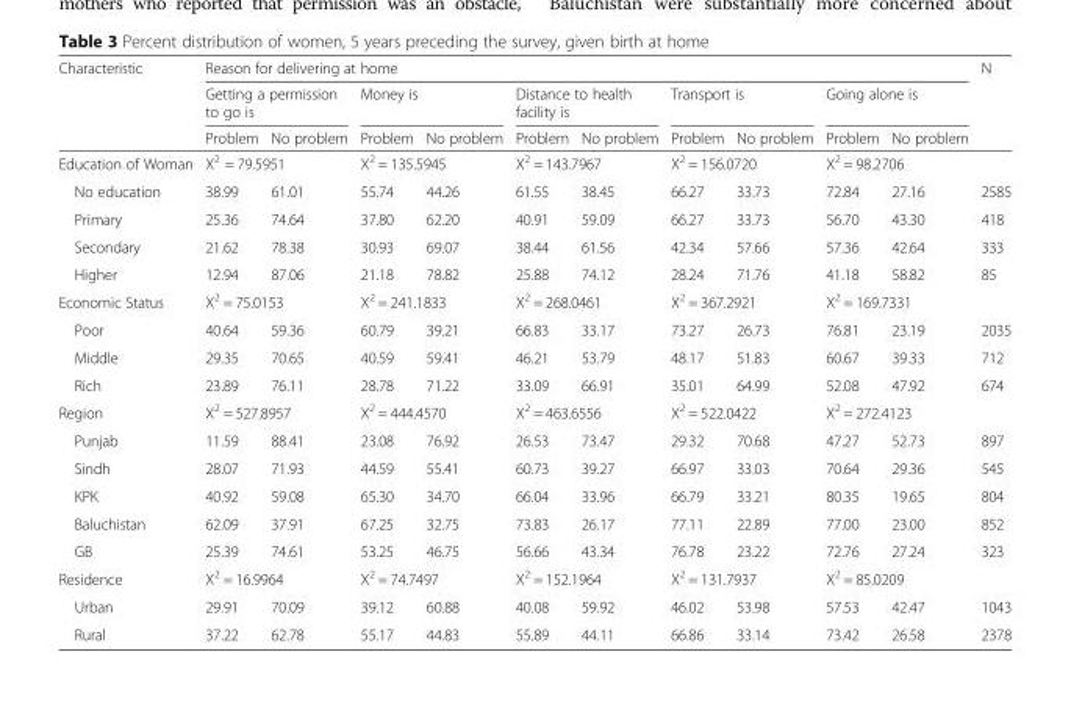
<table><thead><tr><td rowspan="3">Characteristic</td><td colspan="10">Reason for delivering at home</td><td rowspan="3">N</td></tr><tr><td colspan="2">Getting a permission to go is</td><td colspan="2">Money is</td><td colspan="2">Distance to health facility is</td><td colspan="2">Transport is</td><td colspan="2">Going alone is</td></tr><tr><td>Problem</td><td>No problem</td><td>Problem</td><td>No problem</td><td>Problem</td><td>No problem</td><td>Problem</td><td>No problem</td><td>Problem</td><td>No problem</td></tr></thead><tbody><tr><td>Education of Woman</td><td colspan="2">X<sup>2</sup> = 79.5951</td><td colspan="2">X<sup>2</sup> = 135.5945</td><td colspan="2">X<sup>2</sup> = 143.7967</td><td colspan="2">X<sup>2</sup> = 156.0720</td><td colspan="2">X<sup>2</sup> = 98.2706</td><td></td></tr><tr><td>No education</td><td>38.99</td><td>61.01</td><td>55.74</td><td>44.26</td><td>61.55</td><td>38.45</td><td>66.27</td><td>33.73</td><td>72.84</td><td>27.16</td><td>2585</td></tr><tr><td>Primary</td><td>25.36</td><td>74.64</td><td>37.80</td><td>62.20</td><td>40.91</td><td>59.09</td><td>66.27</td><td>33.73</td><td>56.70</td><td>43.30</td><td>418</td></tr><tr><td>Secondary</td><td>21.62</td><td>78.38</td><td>30.93</td><td>69.07</td><td>38.44</td><td>61.56</td><td>42.34</td><td>57.66</td><td>57.36</td><td>42.64</td><td>333</td></tr><tr><td>Higher</td><td>12.94</td><td>87.06</td><td>21.18</td><td>78.82</td><td>25.88</td><td>74.12</td><td>28.24</td><td>71.76</td><td>41.18</td><td>58.82</td><td>85</td></tr><tr><td>Economic Status</td><td colspan="2">X<sup>2</sup> = 75.0153</td><td colspan="2">X<sup>2</sup> = 241.1833</td><td colspan="2">X<sup>2</sup> = 268.0461</td><td colspan="2">X<sup>2</sup> = 367.2921</td><td colspan="2">X<sup>2</sup> = 169.7331</td><td></td></tr><tr><td>Poor</td><td>40.64</td><td>59.36</td><td>60.79</td><td>39.21</td><td>66.83</td><td>33.17</td><td>73.27</td><td>26.73</td><td>76.81</td><td>23.19</td><td>2035</td></tr><tr><td>Middle</td><td>29.35</td><td>70.65</td><td>40.59</td><td>59.41</td><td>46.21</td><td>53.79</td><td>48.17</td><td>51.83</td><td>60.67</td><td>39.33</td><td>712</td></tr><tr><td>Rich</td><td>23.89</td><td>76.11</td><td>28.78</td><td>71.22</td><td>33.09</td><td>66.91</td><td>35.01</td><td>64.99</td><td>52.08</td><td>47.92</td><td>674</td></tr><tr><td>Region</td><td colspan="2">X<sup>2</sup> = 527.8957</td><td colspan="2">X<sup>2</sup> = 444.4570</td><td colspan="2">X<sup>2</sup> = 463.6556</td><td colspan="2">X<sup>2</sup> = 522.0422</td><td colspan="2">X<sup>2</sup> = 272.4123</td><td></td></tr><tr><td>Punjab</td><td>11.59</td><td>88.41</td><td>23.08</td><td>76.92</td><td>26.53</td><td>73.47</td><td>29.32</td><td>70.68</td><td>47.27</td><td>52.73</td><td>897</td></tr><tr><td>Sindh</td><td>28.07</td><td>71.93</td><td>44.59</td><td>55.41</td><td>60.73</td><td>39.27</td><td>66.97</td><td>33.03</td><td>70.64</td><td>29.36</td><td>545</td></tr><tr><td>KPK</td><td>40.92</td><td>59.08</td><td>65.30</td><td>34.70</td><td>66.04</td><td>33.96</td><td>66.79</td><td>33.21</td><td>80.35</td><td>19.65</td><td>804</td></tr><tr><td>Baluchistan</td><td>62.09</td><td>37.91</td><td>67.25</td><td>32.75</td><td>73.83</td><td>26.17</td><td>77.11</td><td>22.89</td><td>77.00</td><td>23.00</td><td>852</td></tr><tr><td>GB</td><td>25.39</td><td>74.61</td><td>53.25</td><td>46.75</td><td>56.66</td><td>43.34</td><td>76.78</td><td>23.22</td><td>72.76</td><td>27.24</td><td>323</td></tr><tr><td>Residence</td><td colspan="2">X<sup>2</sup> = 16.9964</td><td colspan="2">X<sup>2</sup> = 74.7497</td><td colspan="2">X<sup>2</sup> = 152.1964</td><td colspan="2">X<sup>2</sup> = 131.7937</td><td colspan="2">X<sup>2</sup> = 85.0209</td><td></td></tr><tr><td>Urban</td><td>29.91</td><td>70.09</td><td>39.12</td><td>60.88</td><td>40.08</td><td>59.92</td><td>46.02</td><td>53.98</td><td>57.53</td><td>42.47</td><td>1043</td></tr><tr><td>Rural</td><td>37.22</td><td>62.78</td><td>55.17</td><td>44.83</td><td>55.89</td><td>44.11</td><td>66.86</td><td>33.14</td><td>73.42</td><td>26.58</td><td>2378</td></tr></tbody></table>